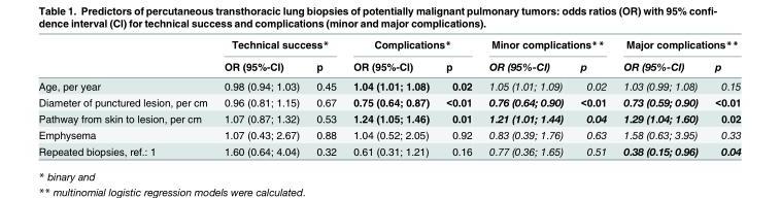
<table><thead><tr><td rowspan="2"></td><td colspan="2">Technical success*</td><td colspan="2">Complications*</td><td colspan="2">Minor complications**</td><td colspan="2">Major complications**</td></tr><tr><td>OR (95%-CI)</td><td>p</td><td>OR (95%-CI)</td><td>p</td><td>OR (95%-CI)</td><td>p</td><td>OR (95%-CI)</td><td>p</td></tr></thead><tbody><tr><td>Age, per year</td><td>0.98 (0.94; 1.03)</td><td>0.45</td><td>1.04 (1.01; 1.08)</td><td>0.02</td><td>1.05 (1.01; 1.09)</td><td>0.02</td><td>1.03 (0.99; 1.08)</td><td>0.15</td></tr><tr><td>Diameter of punctured lesion, per cm</td><td>0.96 (0.81; 1.15)</td><td>0.67</td><td>0.75 (0.64; 0.87)</td><td>&lt;0.01</td><td>0.76 (0.64; 0.90)</td><td>&lt;0.01</td><td>0.73 (0.59; 0.90)</td><td>&lt;0.01</td></tr><tr><td>Pathway from skin to lesion, per cm</td><td>1.07 (0.87; 1.32)</td><td>0.53</td><td>1.24 (1.05; 1.46)</td><td>0.01</td><td>1.21 (1.01; 1.44)</td><td>0.04</td><td>1.29 (1.04; 1.60)</td><td>0.02</td></tr><tr><td>Emphysema</td><td>1.07 (0.43; 2.67)</td><td>0.88</td><td>1.04 (0.52; 2.05)</td><td>0.92</td><td>0.83 (0.39; 1.76)</td><td>0.63</td><td>1.58 (0.63; 3.95)</td><td>0.33</td></tr><tr><td>Repeated biopsies, ref.: 1</td><td>1.60 (0.64; 4.04)</td><td>0.32</td><td>0.61 (0.31; 1.21)</td><td>0.16</td><td>0.77 (0.36; 1.65)</td><td>0.51</td><td>0.38 (0.15; 0.96)</td><td>0.04</td></tr></tbody></table>